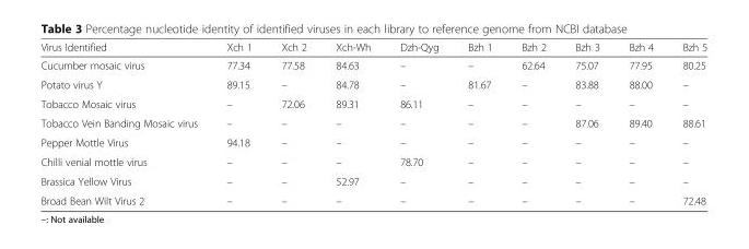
<table><thead><tr><td>Virus Identified</td><td>Xch 1</td><td>Xch 2</td><td>Xch-Wh</td><td>Dzh-Qyg</td><td>Bzh 1</td><td>Bzh 2</td><td>Bzh 3</td><td>Bzh 4</td><td>Bzh 5</td></tr></thead><tbody><tr><td>Cucumber mosaic virus</td><td>77.34</td><td>77.58</td><td>84.63</td><td>–</td><td>–</td><td>62.64</td><td>75.07</td><td>77.95</td><td>80.25</td></tr><tr><td>Potato virus Y</td><td>89.15</td><td>–</td><td>84.78</td><td>–</td><td>81.67</td><td>–</td><td>83.88</td><td>88.00</td><td>–</td></tr><tr><td>Tobacco Mosaic virus</td><td>–</td><td>72.06</td><td>89.31</td><td>86.11</td><td>–</td><td>–</td><td>–</td><td>–</td><td>–</td></tr><tr><td>Tobacco Vein Banding Mosaic virus</td><td>–</td><td>–</td><td>–</td><td>–</td><td>–</td><td>–</td><td>87.06</td><td>89.40</td><td>88.61</td></tr><tr><td>Pepper Mottle Virus</td><td>94.18</td><td>–</td><td>–</td><td>–</td><td>–</td><td>–</td><td>–</td><td>–</td><td>–</td></tr><tr><td>Chilli venial mottle virus</td><td>–</td><td>–</td><td>–</td><td>78.70</td><td>–</td><td>–</td><td>–</td><td>–</td><td>–</td></tr><tr><td>Brassica Yellow Virus</td><td>–</td><td>–</td><td>52.97</td><td>–</td><td>–</td><td>–</td><td>–</td><td>–</td><td>–</td></tr><tr><td>Broad Bean Wilt Virus 2</td><td>–</td><td>–</td><td>–</td><td>–</td><td>–</td><td>–</td><td>–</td><td>–</td><td>72.48</td></tr></tbody></table>